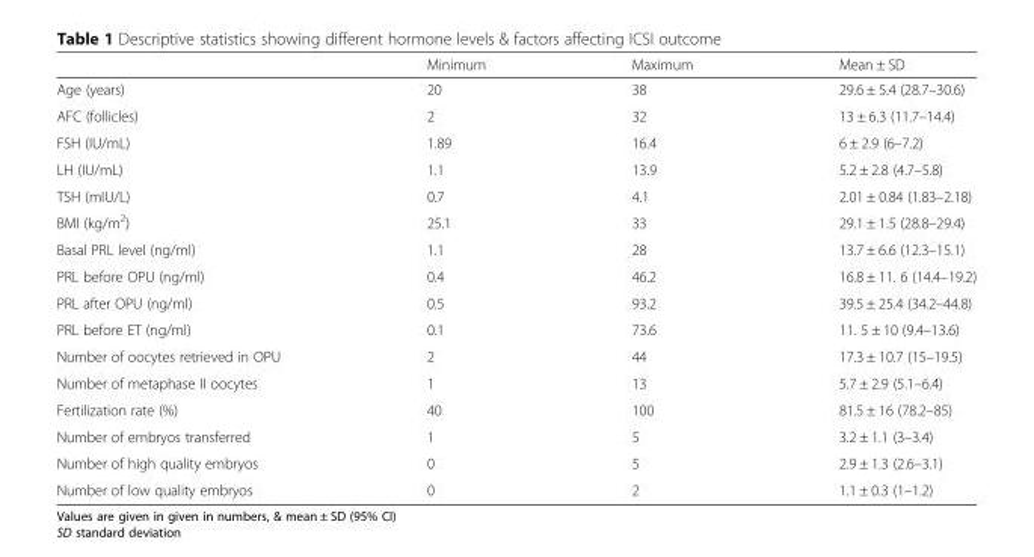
<table><thead><tr><td></td><td>Minimum</td><td>Maximum</td><td>Mean ± SD</td></tr></thead><tbody><tr><td>Age (years)</td><td>20</td><td>38</td><td>29.6 ± 5.4 (28.7–30.6)</td></tr><tr><td>AFC (follicles)</td><td>2</td><td>32</td><td>13 ± 6.3 (11.7–14.4)</td></tr><tr><td>FSH (IU/mL)</td><td>1.89</td><td>16.4</td><td>6 ± 2.9 (6–7.2)</td></tr><tr><td>LH (IU/mL)</td><td>1.1</td><td>13.9</td><td>5.2 ± 2.8 (4.7–5.8)</td></tr><tr><td>TSH (mIU/L)</td><td>0.7</td><td>4.1</td><td>2.01 ± 0.84 (1.83–2.18)</td></tr><tr><td>BMI (kg/m<sup>2</sup>)</td><td>25.1</td><td>33</td><td>29.1 ± 1.5 (28.8–29.4)</td></tr><tr><td>Basal PRL level (ng/ml)</td><td>1.1</td><td>28</td><td>13.7 ± 6.6 (12.3–15.1)</td></tr><tr><td>PRL before OPU (ng/ml)</td><td>0.4</td><td>46.2</td><td>16.8 ± 11. 6 (14.4–19.2)</td></tr><tr><td>PRL after OPU (ng/ml)</td><td>0.5</td><td>93.2</td><td>39.5 ± 25.4 (34.2–44.8)</td></tr><tr><td>PRL before ET (ng/ml)</td><td>0.1</td><td>73.6</td><td>11. 5 ± 10 (9.4–13.6)</td></tr><tr><td>Number of oocytes retrieved in OPU</td><td>2</td><td>44</td><td>17.3 ± 10.7 (15–19.5)</td></tr><tr><td>Number of metaphase II oocytes</td><td>1</td><td>13</td><td>5.7 ± 2.9 (5.1–6.4)</td></tr><tr><td>Fertilization rate (%)</td><td>40</td><td>100</td><td>81.5 ± 16 (78.2–85)</td></tr><tr><td>Number of embryos transferred</td><td>1</td><td>5</td><td>3.2 ± 1.1 (3–3.4)</td></tr><tr><td>Number of high quality embryos</td><td>0</td><td>5</td><td>2.9 ± 1.3 (2.6–3.1)</td></tr><tr><td>Number of low quality embryos</td><td>0</td><td>2</td><td>1.1 ± 0.3 (1–1.2)</td></tr></tbody></table>